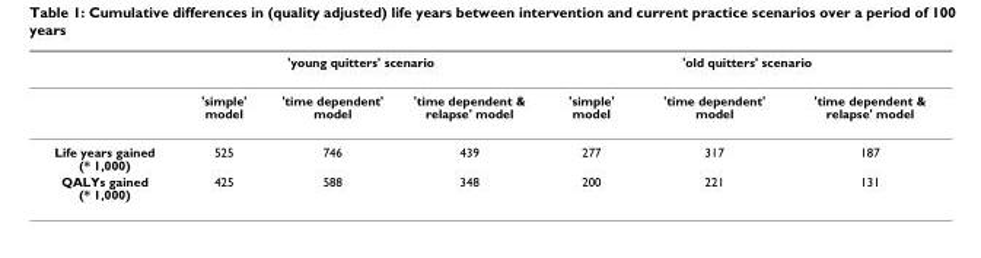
<table><thead><tr><td rowspan="2"></td><td colspan="3">&#x27;young quitters&#x27; scenario</td><td colspan="3">&#x27;old quitters&#x27; scenario</td></tr><tr><td>&#x27;simple&#x27; model</td><td>&#x27;time dependent&#x27; model</td><td>&#x27;time dependent &amp; relapse&#x27; model</td><td>&#x27;simple&#x27; model</td><td>&#x27;time dependent&#x27; model</td><td>&#x27;time dependent &amp; relapse&#x27; model</td></tr></thead><tbody><tr><td>Life years gained (* 1,000)</td><td>525</td><td>746</td><td>439</td><td>277</td><td>317</td><td>187</td></tr><tr><td>QALYs gained (* 1,000)</td><td>425</td><td>588</td><td>348</td><td>200</td><td>221</td><td>131</td></tr></tbody></table>